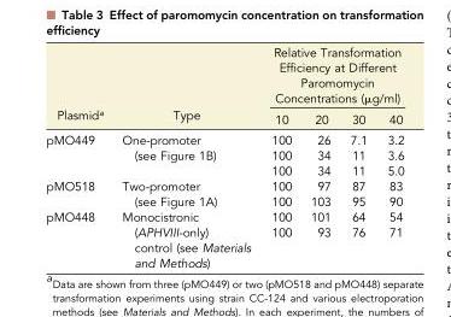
<table><thead><tr><td rowspan="2">Plasmid<sup>a</sup></td><td rowspan="2">Type</td><td colspan="4">Relative Transformation Efficiency at Different Paromomycin Concentrations (µg/ml)</td></tr><tr><td>10</td><td>20</td><td>30</td><td>40</td></tr></thead><tbody><tr><td rowspan="3">pMO449</td><td rowspan="3">One-promoter (see Figure 1B)</td><td>100</td><td>26</td><td>7.1</td><td>3.2</td></tr><tr><td>100</td><td>34</td><td>11</td><td>3.6</td></tr><tr><td>100</td><td>34</td><td>11</td><td>5.0</td></tr><tr><td rowspan="2">pMO518</td><td rowspan="2">Two-promoter (see Figure 1A)</td><td>100</td><td>97</td><td>87</td><td>83</td></tr><tr><td>100</td><td>103</td><td>95</td><td>90</td></tr><tr><td rowspan="2">pMO448</td><td rowspan="2">Monocistronic (APHVIII-only) control (see Materials and Methods)</td><td>100</td><td>101</td><td>64</td><td>54</td></tr><tr><td>100</td><td>93</td><td>76</td><td>71</td></tr></tbody></table>